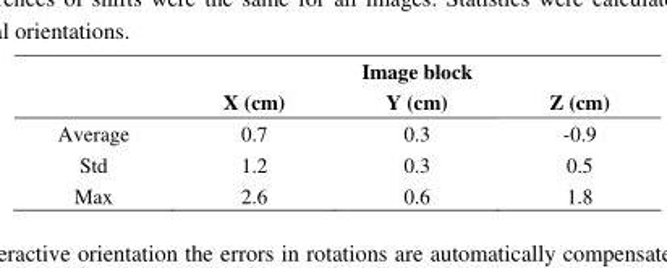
<table><thead><tr><td rowspan="2"></td><td colspan="3">Image block</td></tr><tr><td>X (cm)</td><td>Y (cm)</td><td>Z (cm)</td></tr></thead><tbody><tr><td>Average</td><td>0.7</td><td>0.3</td><td>-0.9</td></tr><tr><td>Std</td><td>1.2</td><td>0.3</td><td>0.5</td></tr><tr><td>Max</td><td>2.6</td><td>0.6</td><td>1.8</td></tr></tbody></table>